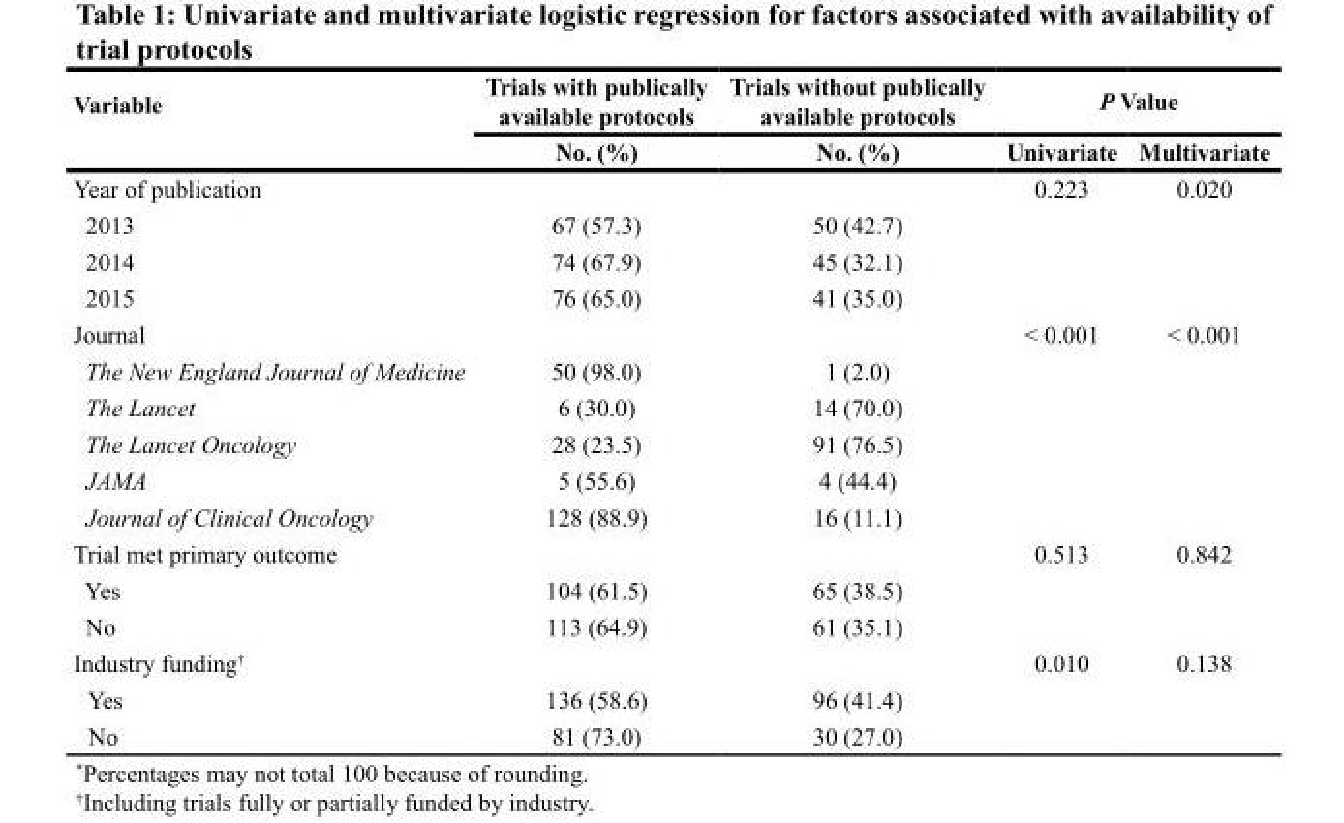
<table><thead><tr><td rowspan="2">Variable</td><td rowspan="2">Trials with publically available protocols No. (%)</td><td rowspan="2">Trials without publically available protocols No. (%)</td><td colspan="2">P Value</td></tr><tr><td>Univariate</td><td>Multivariate</td></tr></thead><tbody><tr><td>Year of publication</td><td></td><td></td><td>0.223</td><td>0.020</td></tr><tr><td>2013</td><td>67 (57.3)</td><td>50 (42.7)</td><td></td><td></td></tr><tr><td>2014</td><td>74 (67.9)</td><td>45 (32.1)</td><td></td><td></td></tr><tr><td>2015</td><td>76 (65.0)</td><td>41 (35.0)</td><td></td><td></td></tr><tr><td>Journal</td><td></td><td></td><td>&lt; 0.001</td><td>&lt; 0.001</td></tr><tr><td>The New England Journal of Medicine</td><td>50 (98.0)</td><td>1 (2.0)</td><td></td><td></td></tr><tr><td>The Lancet</td><td>6 (30.0)</td><td>14 (70.0)</td><td></td><td></td></tr><tr><td>The Lancet Oncology</td><td>28 (23.5)</td><td>91 (76.5)</td><td></td><td></td></tr><tr><td>JAMA</td><td>5 (55.6)</td><td>4 (44.4)</td><td></td><td></td></tr><tr><td>Journal of Clinical Oncology</td><td>128 (88.9)</td><td>16 (11.1)</td><td></td><td></td></tr><tr><td>Trial met primary outcome</td><td></td><td></td><td>0.513</td><td>0.842</td></tr><tr><td>Yes</td><td>104 (61.5)</td><td>65 (38.5)</td><td></td><td></td></tr><tr><td>No</td><td>113 (64.9)</td><td>61 (35.1)</td><td></td><td></td></tr><tr><td>Industry funding<sup>†</sup></td><td></td><td></td><td>0.010</td><td>0.138</td></tr><tr><td>Yes</td><td>136 (58.6)</td><td>96 (41.4)</td><td></td><td></td></tr><tr><td>No</td><td>81 (73.0)</td><td>30 (27.0)</td><td></td><td></td></tr></tbody></table>